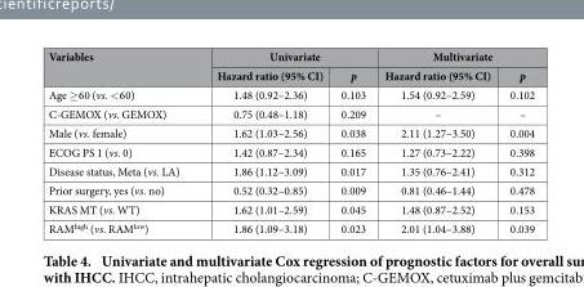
<table><thead><tr><td rowspan="2">Variables</td><td colspan="2">Univariate</td><td colspan="2">Multivariate</td></tr><tr><td>Hazard ratio (95% CI)</td><td>p</td><td>Hazard ratio (95% CI)</td><td>p</td></tr></thead><tbody><tr><td>Age ≥ 60 (vs. &lt; 60)</td><td>1.48 (0.92–2.36)</td><td>0.103</td><td>1.54 (0.92–2.59)</td><td>0.102</td></tr><tr><td>C-GEMOX (vs. GEMOX)</td><td>0.75 (0.48–1.18)</td><td>0.209</td><td>–</td><td>–</td></tr><tr><td>Male (vs. female)</td><td>1.62 (1.03–2.56)</td><td>0.038</td><td>2.11 (1.27–3.50)</td><td>0.004</td></tr><tr><td>ECOG PS 1 (vs. 0)</td><td>1.42 (0.87–2.34)</td><td>0.165</td><td>1.27 (0.73–2.22)</td><td>0.398</td></tr><tr><td>Disease status, Meta (vs. LA)</td><td>1.86 (1.12–3.09)</td><td>0.017</td><td>1.35 (0.76–2.41)</td><td>0.312</td></tr><tr><td>Prior surgery, yes (vs. no)</td><td>0.52 (0.32–0.85)</td><td>0.009</td><td>0.81 (0.46–1.44)</td><td>0.478</td></tr><tr><td>KRAS MT (vs. WT)</td><td>1.62 (1.01–2.59)</td><td>0.045</td><td>1.48 (0.87–2.52)</td><td>0.153</td></tr><tr><td>RAM<sup>high</sup> (vs. RAM<sup>low</sup>)</td><td>1.86 (1.09–3.18)</td><td>0.023</td><td>2.01 (1.04–3.88)</td><td>0.039</td></tr></tbody></table>